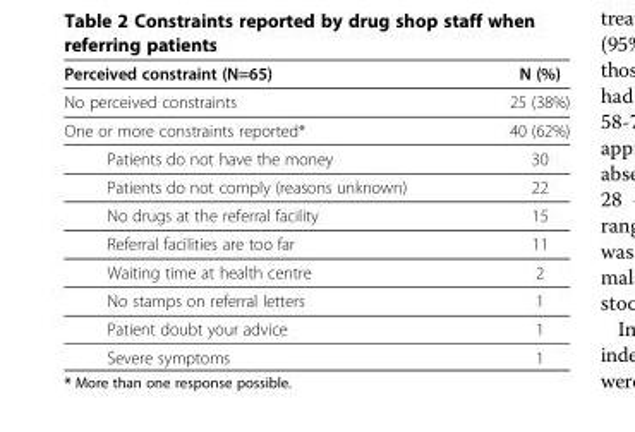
<table><thead><tr><td>Perceived constraint (N=65)</td><td>N (%)</td></tr></thead><tbody><tr><td>No perceived constraints</td><td>25 (38%)</td></tr><tr><td>One or more constraints reported*</td><td>40 (62%)</td></tr><tr><td>Patients do not have the money</td><td>30</td></tr><tr><td>Patients do not comply (reasons unknown)</td><td>22</td></tr><tr><td>No drugs at the referral facility</td><td>15</td></tr><tr><td>Referral facilities are too far</td><td>11</td></tr><tr><td>Waiting time at health centre</td><td>2</td></tr><tr><td>No stamps on referral letters</td><td>1</td></tr><tr><td>Patient doubt your advice</td><td>1</td></tr><tr><td>Severe symptoms</td><td>1</td></tr></tbody></table>